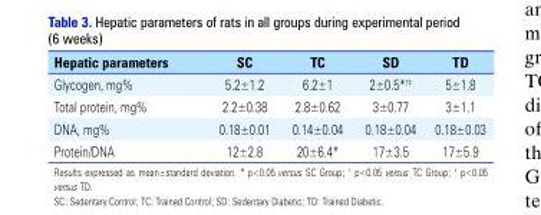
<table><thead><tr><td>Hepatic parameters</td><td>SC</td><td>TC</td><td>SD</td><td>TD</td></tr></thead><tbody><tr><td>Glycogen, mg%</td><td>5.2±1.2</td><td>6.2±1</td><td>2±0.5*<sup>†‡</sup></td><td>5±1.8</td></tr><tr><td>Total protein, mg%</td><td>2.2±0.38</td><td>2.8±0.62</td><td>3±0.77</td><td>3±1.1</td></tr><tr><td>DNA, mg%</td><td>0.18±0.01</td><td>0.14±0.04</td><td>0.18±0.04</td><td>0.18±0.03</td></tr><tr><td>Protein/DNA</td><td>12±2.8</td><td>20±6.4*</td><td>17±3.5</td><td>17±5.9</td></tr></tbody></table>